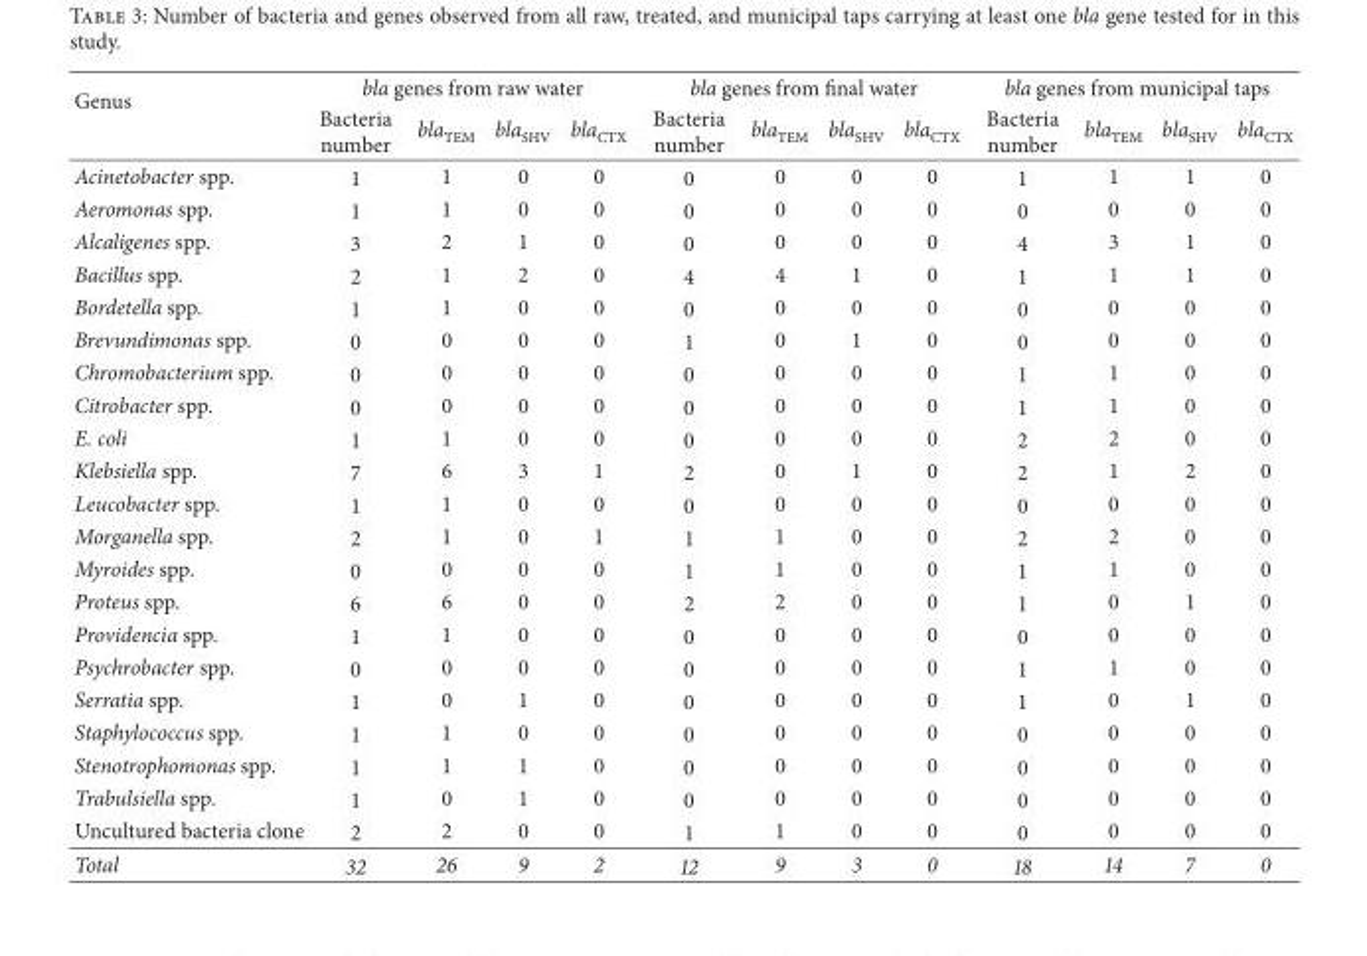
<table><thead><tr><td rowspan="2">Genus</td><td colspan="4">bla genes from raw water</td><td colspan="4">bla genes from final water</td><td colspan="4">bla genes from municipal taps</td></tr><tr><td>Bacteria number</td><td>bla<sub>TEM</sub></td><td>bla<sub>SHV</sub></td><td>bla<sub>CTX</sub></td><td>Bacteria number</td><td>bla<sub>TEM</sub></td><td>bla<sub>SHV</sub></td><td>bla<sub>CTX</sub></td><td>Bacteria number</td><td>bla<sub>TEM</sub></td><td>bla<sub>SHV</sub></td><td>bla<sub>CTX</sub></td></tr></thead><tbody><tr><td>Acinetobacter spp.</td><td>1</td><td>1</td><td>0</td><td>0</td><td>0</td><td>0</td><td>0</td><td>0</td><td>1</td><td>1</td><td>1</td><td>0</td></tr><tr><td>Aeromonas spp.</td><td>1</td><td>1</td><td>0</td><td>0</td><td>0</td><td>0</td><td>0</td><td>0</td><td>0</td><td>0</td><td>0</td><td>0</td></tr><tr><td>Alcaligenes spp.</td><td>3</td><td>2</td><td>1</td><td>0</td><td>0</td><td>0</td><td>0</td><td>0</td><td>4</td><td>3</td><td>1</td><td>0</td></tr><tr><td>Bacillus spp.</td><td>2</td><td>1</td><td>2</td><td>0</td><td>4</td><td>4</td><td>1</td><td>0</td><td>1</td><td>1</td><td>1</td><td>0</td></tr><tr><td>Bordetella spp.</td><td>1</td><td>1</td><td>0</td><td>0</td><td>0</td><td>0</td><td>0</td><td>0</td><td>0</td><td>0</td><td>0</td><td>0</td></tr><tr><td>Brevundimonas spp.</td><td>0</td><td>0</td><td>0</td><td>0</td><td>1</td><td>0</td><td>1</td><td>0</td><td>0</td><td>0</td><td>0</td><td>0</td></tr><tr><td>Chromobacterium spp.</td><td>0</td><td>0</td><td>0</td><td>0</td><td>0</td><td>0</td><td>0</td><td>0</td><td>1</td><td>1</td><td>0</td><td>0</td></tr><tr><td>Citrobacter spp.</td><td>0</td><td>0</td><td>0</td><td>0</td><td>0</td><td>0</td><td>0</td><td>0</td><td>1</td><td>1</td><td>0</td><td>0</td></tr><tr><td>E. coli</td><td>1</td><td>1</td><td>0</td><td>0</td><td>0</td><td>0</td><td>0</td><td>0</td><td>2</td><td>2</td><td>0</td><td>0</td></tr><tr><td>Klebsiella spp.</td><td>7</td><td>6</td><td>3</td><td>1</td><td>2</td><td>0</td><td>1</td><td>0</td><td>2</td><td>1</td><td>2</td><td>0</td></tr><tr><td>Leucobacter spp.</td><td>1</td><td>1</td><td>0</td><td>0</td><td>0</td><td>0</td><td>0</td><td>0</td><td>0</td><td>0</td><td>0</td><td>0</td></tr><tr><td>Morganella spp.</td><td>2</td><td>1</td><td>0</td><td>1</td><td>1</td><td>1</td><td>0</td><td>0</td><td>2</td><td>2</td><td>0</td><td>0</td></tr><tr><td>Myroides spp.</td><td>0</td><td>0</td><td>0</td><td>0</td><td>1</td><td>1</td><td>0</td><td>0</td><td>1</td><td>1</td><td>0</td><td>0</td></tr><tr><td>Proteus spp.</td><td>6</td><td>6</td><td>0</td><td>0</td><td>2</td><td>2</td><td>0</td><td>0</td><td>1</td><td>0</td><td>1</td><td>0</td></tr><tr><td>Providencia spp.</td><td>1</td><td>1</td><td>0</td><td>0</td><td>0</td><td>0</td><td>0</td><td>0</td><td>0</td><td>0</td><td>0</td><td>0</td></tr><tr><td>Psychrobacter spp.</td><td>0</td><td>0</td><td>0</td><td>0</td><td>0</td><td>0</td><td>0</td><td>0</td><td>1</td><td>1</td><td>0</td><td>0</td></tr><tr><td>Serratia spp.</td><td>1</td><td>0</td><td>1</td><td>0</td><td>0</td><td>0</td><td>0</td><td>0</td><td>1</td><td>0</td><td>1</td><td>0</td></tr><tr><td>Staphylococcus spp.</td><td>1</td><td>1</td><td>0</td><td>0</td><td>0</td><td>0</td><td>0</td><td>0</td><td>0</td><td>0</td><td>0</td><td>0</td></tr><tr><td>Stenotrophomonas spp.</td><td>1</td><td>1</td><td>1</td><td>0</td><td>0</td><td>0</td><td>0</td><td>0</td><td>0</td><td>0</td><td>0</td><td>0</td></tr><tr><td>Trabulsiella spp.</td><td>1</td><td>0</td><td>1</td><td>0</td><td>0</td><td>0</td><td>0</td><td>0</td><td>0</td><td>0</td><td>0</td><td>0</td></tr><tr><td>Uncultured bacteria clone</td><td>2</td><td>2</td><td>0</td><td>0</td><td>1</td><td>1</td><td>0</td><td>0</td><td>0</td><td>0</td><td>0</td><td>0</td></tr><tr><td>Total</td><td>32</td><td>26</td><td>9</td><td>2</td><td>12</td><td>9</td><td>3</td><td>0</td><td>18</td><td>14</td><td>7</td><td>0</td></tr></tbody></table>